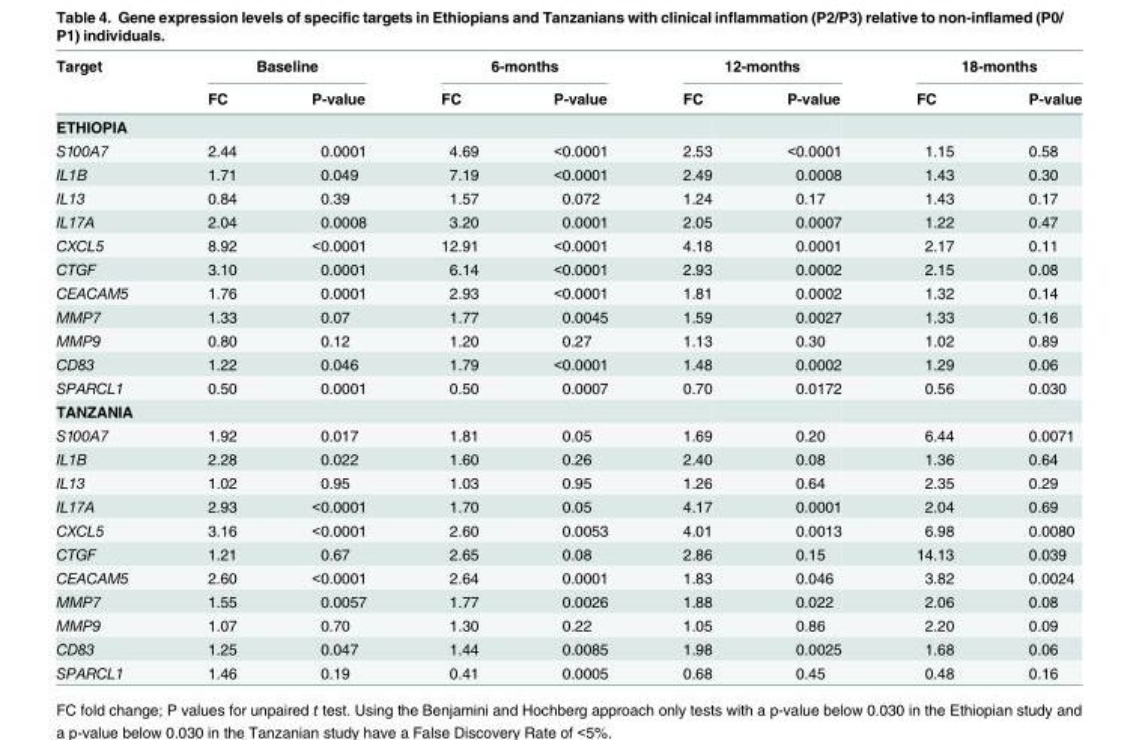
<table><thead><tr><td rowspan="2">Target</td><td colspan="2">Baseline</td><td colspan="2">6-months</td><td colspan="2">12-months</td><td colspan="2">18-months</td></tr><tr><td>FC</td><td>P-value</td><td>FC</td><td>P-value</td><td>FC</td><td>P-value</td><td>FC</td><td>P-value</td></tr></thead><tbody><tr><td colspan="9">ETHIOPIA</td></tr><tr><td>S100A7</td><td>2.44</td><td>0.0001</td><td>4.69</td><td>&lt;0.0001</td><td>2.53</td><td>&lt;0.0001</td><td>1.15</td><td>0.58</td></tr><tr><td>IL1B</td><td>1.71</td><td>0.049</td><td>7.19</td><td>&lt;0.0001</td><td>2.49</td><td>0.0008</td><td>1.43</td><td>0.30</td></tr><tr><td>IL13</td><td>0.84</td><td>0.39</td><td>1.57</td><td>0.072</td><td>1.24</td><td>0.17</td><td>1.43</td><td>0.17</td></tr><tr><td>IL17A</td><td>2.04</td><td>0.0008</td><td>3.20</td><td>0.0001</td><td>2.05</td><td>0.0007</td><td>1.22</td><td>0.47</td></tr><tr><td>CXCL5</td><td>8.92</td><td>&lt;0.0001</td><td>12.91</td><td>&lt;0.0001</td><td>4.18</td><td>0.0001</td><td>2.17</td><td>0.11</td></tr><tr><td>CTGF</td><td>3.10</td><td>0.0001</td><td>6.14</td><td>&lt;0.0001</td><td>2.93</td><td>0.0002</td><td>2.15</td><td>0.08</td></tr><tr><td>CEACAM5</td><td>1.76</td><td>0.0001</td><td>2.93</td><td>&lt;0.0001</td><td>1.81</td><td>0.0002</td><td>1.32</td><td>0.14</td></tr><tr><td>MMP7</td><td>1.33</td><td>0.07</td><td>1.77</td><td>0.0045</td><td>1.59</td><td>0.0027</td><td>1.33</td><td>0.16</td></tr><tr><td>MMP9</td><td>0.80</td><td>0.12</td><td>1.20</td><td>0.27</td><td>1.13</td><td>0.30</td><td>1.02</td><td>0.89</td></tr><tr><td>CD83</td><td>1.22</td><td>0.046</td><td>1.79</td><td>&lt;0.0001</td><td>1.48</td><td>0.0002</td><td>1.29</td><td>0.06</td></tr><tr><td>SPARCL1</td><td>0.50</td><td>0.0001</td><td>0.50</td><td>0.0007</td><td>0.70</td><td>0.0172</td><td>0.56</td><td>0.030</td></tr><tr><td colspan="9">TANZANIA</td></tr><tr><td>S100A7</td><td>1.92</td><td>0.017</td><td>1.81</td><td>0.05</td><td>1.69</td><td>0.20</td><td>6.44</td><td>0.0071</td></tr><tr><td>IL1B</td><td>2.28</td><td>0.022</td><td>1.60</td><td>0.26</td><td>2.40</td><td>0.08</td><td>1.36</td><td>0.64</td></tr><tr><td>IL13</td><td>1.02</td><td>0.95</td><td>1.03</td><td>0.95</td><td>1.26</td><td>0.64</td><td>2.35</td><td>0.29</td></tr><tr><td>IL17A</td><td>2.93</td><td>&lt;0.0001</td><td>1.70</td><td>0.05</td><td>4.17</td><td>0.0001</td><td>2.04</td><td>0.69</td></tr><tr><td>CXCL5</td><td>3.16</td><td>&lt;0.0001</td><td>2.60</td><td>0.0053</td><td>4.01</td><td>0.0013</td><td>6.98</td><td>0.0080</td></tr><tr><td>CTGF</td><td>1.21</td><td>0.67</td><td>2.65</td><td>0.08</td><td>2.86</td><td>0.15</td><td>14.13</td><td>0.039</td></tr><tr><td>CEACAM5</td><td>2.60</td><td>&lt;0.0001</td><td>2.64</td><td>0.0001</td><td>1.83</td><td>0.046</td><td>3.82</td><td>0.0024</td></tr><tr><td>MMP7</td><td>1.55</td><td>0.0057</td><td>1.77</td><td>0.0026</td><td>1.88</td><td>0.022</td><td>2.06</td><td>0.08</td></tr><tr><td>MMP9</td><td>1.07</td><td>0.70</td><td>1.30</td><td>0.22</td><td>1.05</td><td>0.86</td><td>2.20</td><td>0.09</td></tr><tr><td>CD83</td><td>1.25</td><td>0.047</td><td>1.44</td><td>0.0085</td><td>1.98</td><td>0.0025</td><td>1.68</td><td>0.06</td></tr><tr><td>SPARCL1</td><td>1.46</td><td>0.19</td><td>0.41</td><td>0.0005</td><td>0.68</td><td>0.45</td><td>0.48</td><td>0.16</td></tr></tbody></table>